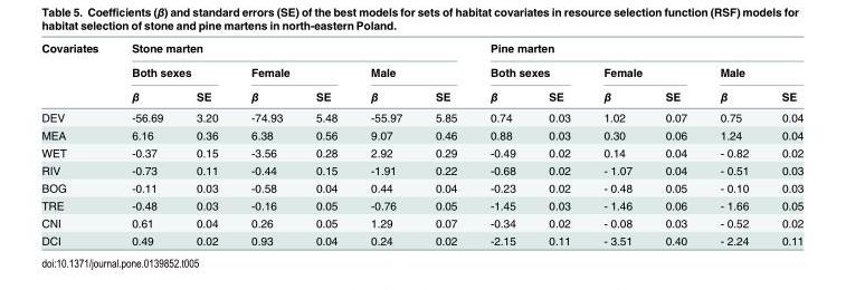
<table><thead><tr><td rowspan="3">Covariates</td><td colspan="6">Stone marten</td><td colspan="6">Pine marten</td></tr><tr><td colspan="2">Both sexes</td><td colspan="2">Female</td><td colspan="2">Male</td><td colspan="2">Both sexes</td><td colspan="2">Female</td><td colspan="2">Male</td></tr><tr><td>β</td><td>SE</td><td>β</td><td>SE</td><td>β</td><td>SE</td><td>β</td><td>SE</td><td>β</td><td>SE</td><td>β</td><td>SE</td></tr></thead><tbody><tr><td>DEV</td><td>-56.69</td><td>3.20</td><td>-74.93</td><td>5.48</td><td>-55.97</td><td>5.85</td><td>0.74</td><td>0.03</td><td>1.02</td><td>0.07</td><td>0.75</td><td>0.04</td></tr><tr><td>MEA</td><td>6.16</td><td>0.36</td><td>6.38</td><td>0.56</td><td>9.07</td><td>0.46</td><td>0.88</td><td>0.03</td><td>0.30</td><td>0.06</td><td>1.24</td><td>0.04</td></tr><tr><td>WET</td><td>-0.37</td><td>0.15</td><td>-3.56</td><td>0.28</td><td>2.92</td><td>0.29</td><td>-0.49</td><td>0.02</td><td>0.14</td><td>0.04</td><td>- 0.82</td><td>0.02</td></tr><tr><td>RIV</td><td>-0.73</td><td>0.11</td><td>-0.44</td><td>0.15</td><td>-1.91</td><td>0.22</td><td>-0.68</td><td>0.02</td><td>- 1.07</td><td>0.04</td><td>- 0.51</td><td>0.03</td></tr><tr><td>BOG</td><td>-0.11</td><td>0.03</td><td>-0.58</td><td>0.04</td><td>0.44</td><td>0.04</td><td>-0.23</td><td>0.02</td><td>- 0.48</td><td>0.05</td><td>- 0.10</td><td>0.03</td></tr><tr><td>TRE</td><td>-0.48</td><td>0.03</td><td>-0.16</td><td>0.05</td><td>-0.76</td><td>0.05</td><td>-1.45</td><td>0.03</td><td>- 1.46</td><td>0.06</td><td>- 1.66</td><td>0.05</td></tr><tr><td>CNI</td><td>0.61</td><td>0.04</td><td>0.26</td><td>0.05</td><td>1.29</td><td>0.07</td><td>-0.34</td><td>0.02</td><td>- 0.08</td><td>0.03</td><td>- 0.52</td><td>0.02</td></tr><tr><td>DCI</td><td>0.49</td><td>0.02</td><td>0.93</td><td>0.04</td><td>0.24</td><td>0.02</td><td>-2.15</td><td>0.11</td><td>- 3.51</td><td>0.40</td><td>- 2.24</td><td>0.11</td></tr></tbody></table>